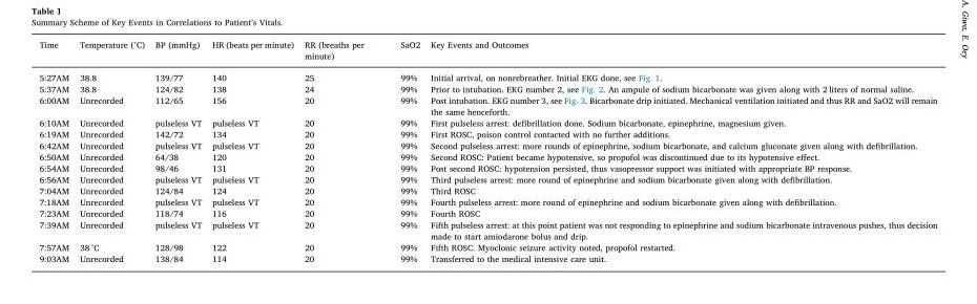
<table><thead><tr><td>Time</td><td>Temperature (°C)</td><td>BP (mmHg)</td><td>HR (beats per minute)</td><td>RR (breaths per minute)</td><td>SaO2</td><td>Key Events and Outcomes</td></tr></thead><tbody><tr><td>5:27AM</td><td>38.8</td><td>139/77</td><td>140</td><td>25</td><td>99%</td><td>Initial arrival, on nonrebreather. Initial EKG done, see Fig. 1.</td></tr><tr><td>5:37AM</td><td>38.8</td><td>124/82</td><td>138</td><td>24</td><td>99%</td><td>Prior to intubation. EKG number 2, see Fig. 2. An ampule of sodium bicarbonate was given along with 2 liters of normal saline.</td></tr><tr><td>6:00AM</td><td>Unrecorded</td><td>112/65</td><td>156</td><td>20</td><td>99%</td><td>Post intubation. EKG number 3, see Fig. 3. Bicarbonate drip initiated. Mechanical ventilation initiated and thus RR and SaO2 will remain the same henceforth.</td></tr><tr><td>6:10AM</td><td>Unrecorded</td><td>pulseless VT</td><td>pulseless VT</td><td>20</td><td>99%</td><td>First pulseless arrest: defibrillation done. Sodium bicarbonate, epinephrine, magnesium given.</td></tr><tr><td>6:19AM</td><td>Unrecorded</td><td>142/72</td><td>134</td><td>20</td><td>99%</td><td>First ROSC, poison control contacted with no further additions.</td></tr><tr><td>6:42AM</td><td>Unrecorded</td><td>pulseless VT</td><td>pulseless VT</td><td>20</td><td>99%</td><td>Second pulseless arrest: more rounds of epinephrine, sodium bicarbonate, and calcium gluconate given along with defibrillation.</td></tr><tr><td>6:50AM</td><td>Unrecorded</td><td>64/38</td><td>120</td><td>20</td><td>99%</td><td>Second ROSC: Patient became hypotensive, so propofol was discontinued due to its hypotensive effect.</td></tr><tr><td>6:54AM</td><td>Unrecorded</td><td>98/46</td><td>131</td><td>20</td><td>99%</td><td>Post second ROSC: hypotension persisted, thus vasopressor support was initiated with appropriate BP response.</td></tr><tr><td>6:56AM</td><td>Unrecorded</td><td>pulseless VT</td><td>pulseless VT</td><td>20</td><td>99%</td><td>Third pulseless arrest: more round of epinephrine and sodium bicarbonate given along with defibrillation.</td></tr><tr><td>7:04AM</td><td>Unrecorded</td><td>124/84</td><td>124</td><td>20</td><td>99%</td><td>Third ROSC</td></tr><tr><td>7:18AM</td><td>Unrecorded</td><td>pulseless VT</td><td>pulseless VT</td><td>20</td><td>99%</td><td>Fourth pulseless arrest: more round of epinephrine and sodium bicarbonate given along with defibrillation.</td></tr><tr><td>7:23AM</td><td>Unrecorded</td><td>118/74</td><td>116</td><td>20</td><td>99%</td><td>Fourth ROSC</td></tr><tr><td>7:39AM</td><td>Unrecorded</td><td>pulseless VT</td><td>pulseless VT</td><td>20</td><td>99%</td><td>Fifth pulseless arrest: at this point patient was not responding to epinephrine and sodium bicarbonate intravenous pushes, thus decision made to start amiodarone bolus and drip.</td></tr><tr><td>7:57AM</td><td>38 °C</td><td>128/98</td><td>122</td><td>20</td><td>99%</td><td>Fifth ROSC. Myoclonic seizure activity noted, propofol restarted.</td></tr><tr><td>9:03AM</td><td>Unrecorded</td><td>138/84</td><td>114</td><td>20</td><td>99%</td><td>Transferred to the medical intensive care unit.</td></tr></tbody></table>